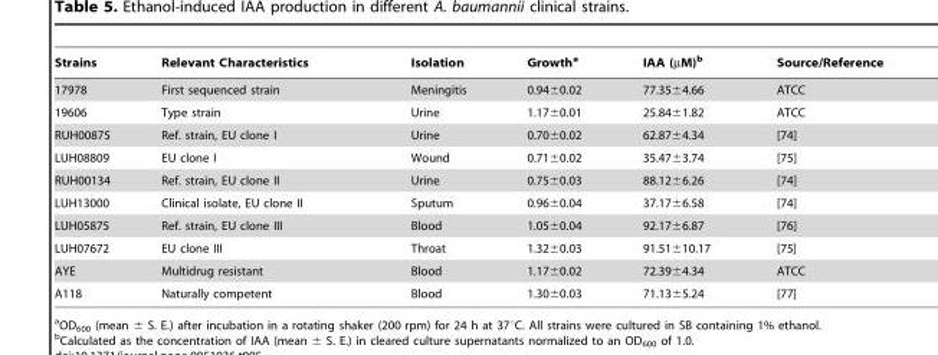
<table><thead><tr><td>Strains</td><td>Relevant Characteristics</td><td>Isolation</td><td>Growth<sup>a</sup></td><td>IAA (µM)<sup>b</sup></td><td>Source/Reference</td></tr></thead><tbody><tr><td>17978</td><td>First sequenced strain</td><td>Meningitis</td><td>0.94±0.02</td><td>77.35±4.66</td><td>ATCC</td></tr><tr><td>19606</td><td>Type strain</td><td>Urine</td><td>1.17±0.01</td><td>25.84±1.82</td><td>ATCC</td></tr><tr><td>RUH00875</td><td>Ref. strain, EU clone I</td><td>Urine</td><td>0.70±0.02</td><td>62.87±4.34</td><td>[74]</td></tr><tr><td>LUH08809</td><td>EU clone I</td><td>Wound</td><td>0.71±0.02</td><td>35.47±3.74</td><td>[75]</td></tr><tr><td>RUH00134</td><td>Ref. strain, EU clone II</td><td>Urine</td><td>0.75±0.03</td><td>88.12±6.26</td><td>[74]</td></tr><tr><td>LUH13000</td><td>Clinical isolate, EU clone II</td><td>Sputum</td><td>0.96±0.04</td><td>37.17±6.58</td><td>[74]</td></tr><tr><td>LUH05875</td><td>Ref. strain, EU clone III</td><td>Blood</td><td>1.05±0.04</td><td>92.17±6.87</td><td>[76]</td></tr><tr><td>LUH07672</td><td>EU clone III</td><td>Throat</td><td>1.32±0.03</td><td>91.51±10.17</td><td>[75]</td></tr><tr><td>AYE</td><td>Multidrug resistant</td><td>Blood</td><td>1.17±0.02</td><td>72.39±4.34</td><td>ATCC</td></tr><tr><td>A118</td><td>Naturally competent</td><td>Blood</td><td>1.30±0.03</td><td>71.13±5.24</td><td>[77]</td></tr></tbody></table>